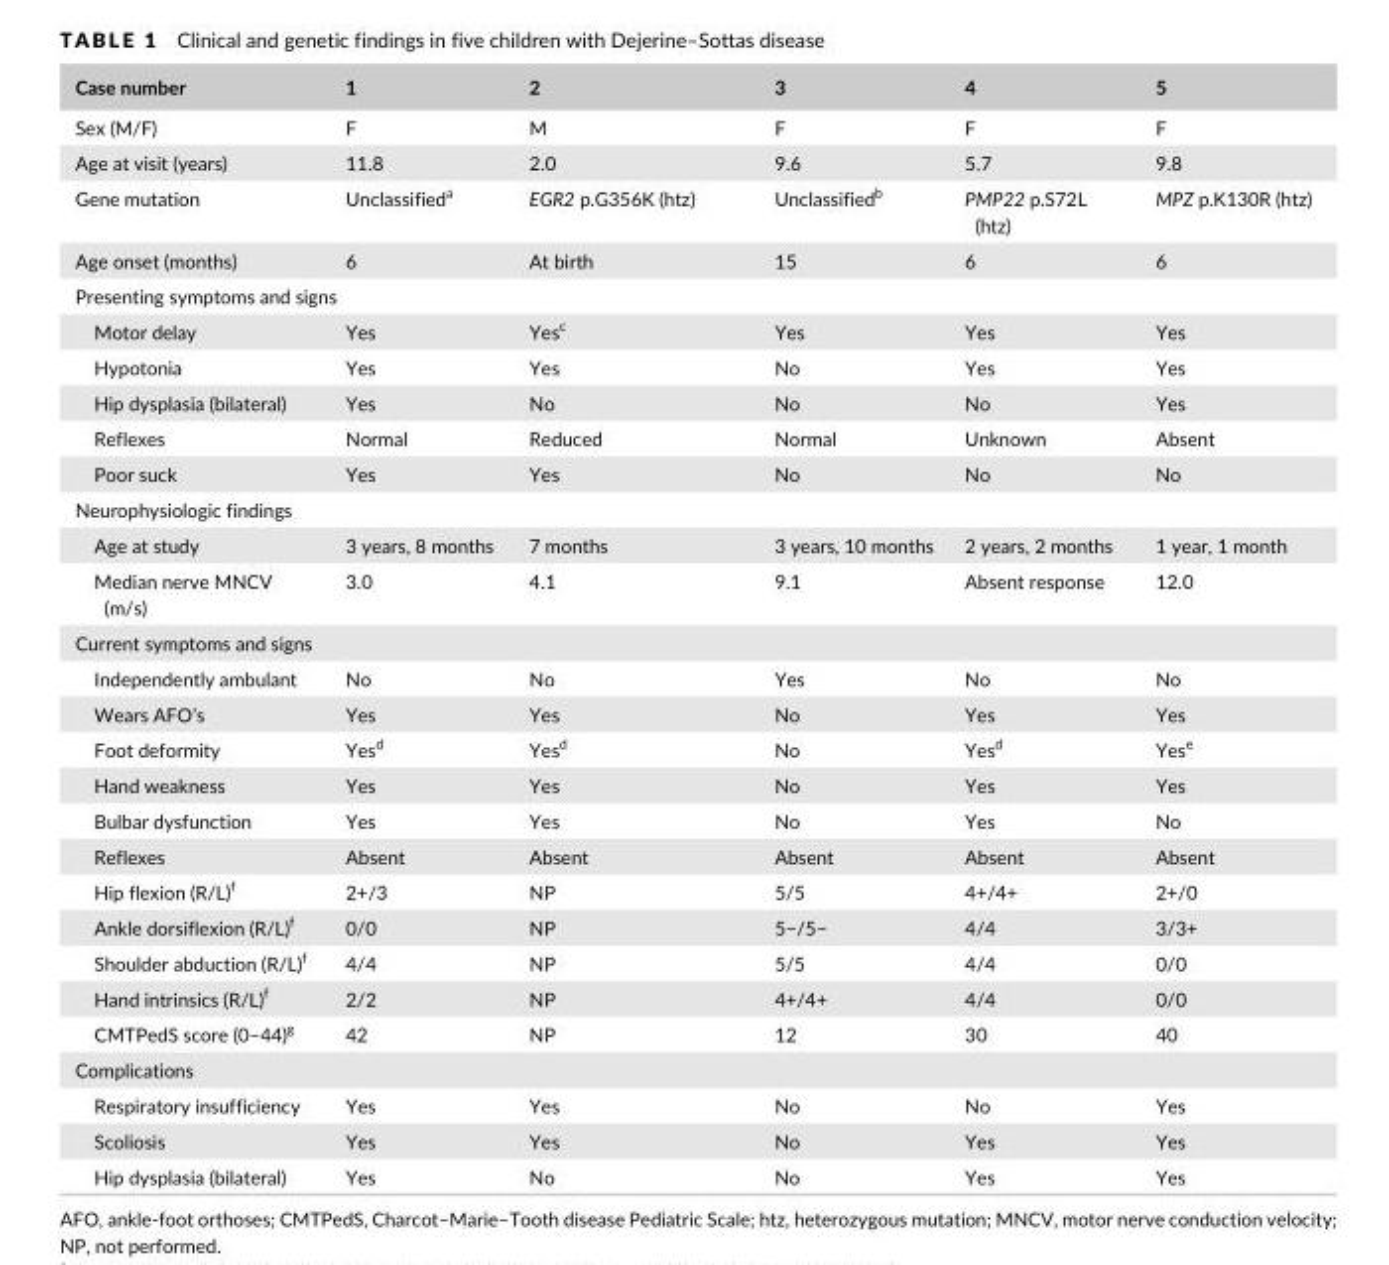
<table><thead><tr><td>Case number</td><td>1</td><td>2</td><td>3</td><td>4</td><td>5</td></tr></thead><tbody><tr><td>Sex (M/F)</td><td>F</td><td>M</td><td>F</td><td>F</td><td>F</td></tr><tr><td>Age at visit (years)</td><td>11.8</td><td>2.0</td><td>9.6</td><td>5.7</td><td>9.8</td></tr><tr><td>Gene mutation</td><td>Unclassified<sup>a</sup></td><td>EGR2 p.G356K (htz)</td><td>Unclassified<sup>b</sup></td><td>PMP22 p.S72L (htz)</td><td>MPZ p.K130R (htz)</td></tr><tr><td>Age onset (months)</td><td>6</td><td>At birth</td><td>15</td><td>6</td><td>6</td></tr><tr><td colspan="6">Presenting symptoms and signs</td></tr><tr><td>Motor delay</td><td>Yes</td><td>Yes<sup>c</sup></td><td>Yes</td><td>Yes</td><td>Yes</td></tr><tr><td>Hypotonia</td><td>Yes</td><td>Yes</td><td>No</td><td>Yes</td><td>Yes</td></tr><tr><td>Hip dysplasia (bilateral)</td><td>Yes</td><td>No</td><td>No</td><td>No</td><td>Yes</td></tr><tr><td>Reflexes</td><td>Normal</td><td>Reduced</td><td>Normal</td><td>Unknown</td><td>Absent</td></tr><tr><td>Poor suck</td><td>Yes</td><td>Yes</td><td>No</td><td>No</td><td>No</td></tr><tr><td colspan="6">Neurophysiologic findings</td></tr><tr><td>Age at study</td><td>3 years, 8 months</td><td>7 months</td><td>3 years, 10 months</td><td>2 years, 2 months</td><td>1 year, 1 month</td></tr><tr><td>Median nerve MNCV (m/s)</td><td>3.0</td><td>4.1</td><td>9.1</td><td>Absent response</td><td>12.0</td></tr><tr><td colspan="6">Current symptoms and signs</td></tr><tr><td>Independently ambulant</td><td>No</td><td>No</td><td>Yes</td><td>No</td><td>No</td></tr><tr><td>Wears AFO’s</td><td>Yes</td><td>Yes</td><td>No</td><td>Yes</td><td>Yes</td></tr><tr><td>Foot deformity</td><td>Yes<sup>d</sup></td><td>Yes<sup>d</sup></td><td>No</td><td>Yes<sup>d</sup></td><td>Yes<sup>e</sup></td></tr><tr><td>Hand weakness</td><td>Yes</td><td>Yes</td><td>No</td><td>Yes</td><td>Yes</td></tr><tr><td>Bulbar dysfunction</td><td>Yes</td><td>Yes</td><td>No</td><td>Yes</td><td>No</td></tr><tr><td>Reflexes</td><td>Absent</td><td>Absent</td><td>Absent</td><td>Absent</td><td>Absent</td></tr><tr><td>Hip flexion (R/L)<sup>f</sup></td><td>2+/3</td><td>NP</td><td>5/5</td><td>4+/4+</td><td>2+/0</td></tr><tr><td>Ankle dorsiflexion (R/L)<sup>f</sup></td><td>0/0</td><td>NP</td><td>5−/5−</td><td>4/4</td><td>3/3+</td></tr><tr><td>Shoulder abduction (R/L)<sup>f</sup></td><td>4/4</td><td>NP</td><td>5/5</td><td>4/4</td><td>0/0</td></tr><tr><td>Hand intrinsics (R/L)<sup>f</sup></td><td>2/2</td><td>NP</td><td>4+/4+</td><td>4/4</td><td>0/0</td></tr><tr><td>CMTPedS score (0–44)<sup>g</sup></td><td>42</td><td>NP</td><td>12</td><td>30</td><td>40</td></tr><tr><td colspan="6">Complications</td></tr><tr><td>Respiratory insufficiency</td><td>Yes</td><td>Yes</td><td>No</td><td>No</td><td>Yes</td></tr><tr><td>Scoliosis</td><td>Yes</td><td>Yes</td><td>No</td><td>Yes</td><td>Yes</td></tr><tr><td>Hip dysplasia (bilateral)</td><td>Yes</td><td>No</td><td>No</td><td>Yes</td><td>Yes</td></tr></tbody></table>